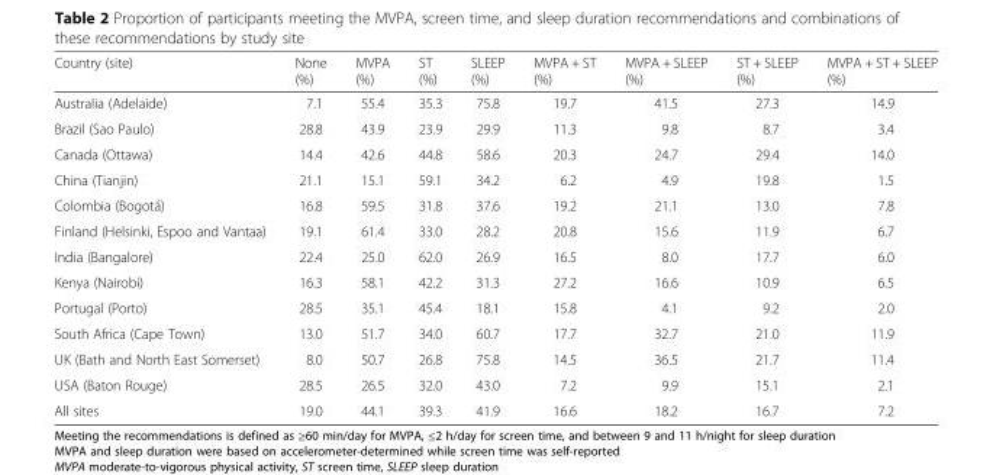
<table><thead><tr><td>Country (site)</td><td>None (%)</td><td>MVPA (%)</td><td>ST (%)</td><td>SLEEP (%)</td><td>MVPA + ST (%)</td><td>MVPA + SLEEP (%)</td><td>ST + SLEEP (%)</td><td>MVPA + ST + SLEEP (%)</td></tr></thead><tbody><tr><td>Australia (Adelaide)</td><td>7.1</td><td>55.4</td><td>35.3</td><td>75.8</td><td>19.7</td><td>41.5</td><td>27.3</td><td>14.9</td></tr><tr><td>Brazil (Sao Paulo)</td><td>28.8</td><td>43.9</td><td>23.9</td><td>29.9</td><td>11.3</td><td>9.8</td><td>8.7</td><td>3.4</td></tr><tr><td>Canada (Ottawa)</td><td>14.4</td><td>42.6</td><td>44.8</td><td>58.6</td><td>20.3</td><td>24.7</td><td>29.4</td><td>14.0</td></tr><tr><td>China (Tianjin)</td><td>21.1</td><td>15.1</td><td>59.1</td><td>34.2</td><td>6.2</td><td>4.9</td><td>19.8</td><td>1.5</td></tr><tr><td>Colombia (Bogotá)</td><td>16.8</td><td>59.5</td><td>31.8</td><td>37.6</td><td>19.2</td><td>21.1</td><td>13.0</td><td>7.8</td></tr><tr><td>Finland (Helsinki, Espoo and Vantaa)</td><td>19.1</td><td>61.4</td><td>33.0</td><td>28.2</td><td>20.8</td><td>15.6</td><td>11.9</td><td>6.7</td></tr><tr><td>India (Bangalore)</td><td>22.4</td><td>25.0</td><td>62.0</td><td>26.9</td><td>16.5</td><td>8.0</td><td>17.7</td><td>6.0</td></tr><tr><td>Kenya (Nairobi)</td><td>16.3</td><td>58.1</td><td>42.2</td><td>31.3</td><td>27.2</td><td>16.6</td><td>10.9</td><td>6.5</td></tr><tr><td>Portugal (Porto)</td><td>28.5</td><td>35.1</td><td>45.4</td><td>18.1</td><td>15.8</td><td>4.1</td><td>9.2</td><td>2.0</td></tr><tr><td>South Africa (Cape Town)</td><td>13.0</td><td>51.7</td><td>34.0</td><td>60.7</td><td>17.7</td><td>32.7</td><td>21.0</td><td>11.9</td></tr><tr><td>UK (Bath and North East Somerset)</td><td>8.0</td><td>50.7</td><td>26.8</td><td>75.8</td><td>14.5</td><td>36.5</td><td>21.7</td><td>11.4</td></tr><tr><td>USA (Baton Rouge)</td><td>28.5</td><td>26.5</td><td>32.0</td><td>43.0</td><td>7.2</td><td>9.9</td><td>15.1</td><td>2.1</td></tr><tr><td>All sites</td><td>19.0</td><td>44.1</td><td>39.3</td><td>41.9</td><td>16.6</td><td>18.2</td><td>16.7</td><td>7.2</td></tr></tbody></table>